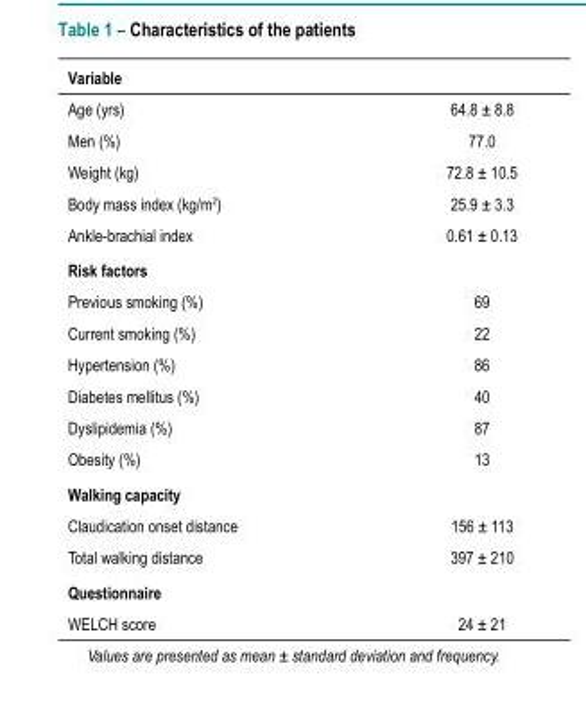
<table><thead><tr><td>Variable</td><td></td></tr></thead><tbody><tr><td>Age (yrs)</td><td>64.8 ± 8.8</td></tr><tr><td>Men (%)</td><td>77.0</td></tr><tr><td>Weight (kg)</td><td>72.8 ± 10.5</td></tr><tr><td>Body mass index (kg/m2)</td><td>25.9 ± 3.3</td></tr><tr><td>Ankle-brachial index</td><td>0.61 ± 0.13</td></tr><tr><td colspan="2">Risk factors</td></tr><tr><td>Previous smoking (%)</td><td>69</td></tr><tr><td>Current smoking (%)</td><td>22</td></tr><tr><td>Hypertension (%)</td><td>86</td></tr><tr><td>Diabetes mellitus (%)</td><td>40</td></tr><tr><td>Dyslipidemia (%)</td><td>87</td></tr><tr><td>Obesity (%)</td><td>13</td></tr><tr><td colspan="2">Walking capacity</td></tr><tr><td>Claudication onset distance</td><td>156 ± 113</td></tr><tr><td>Total walking distance</td><td>397 ± 210</td></tr><tr><td colspan="2">Questionnaire</td></tr><tr><td>WELCH score</td><td>24 ± 21</td></tr></tbody></table>